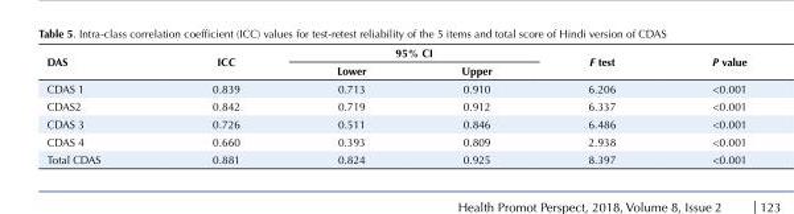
<table><tbody><tr><td rowspan="2">DAS</td><td rowspan="2">ICC</td><td colspan="2">95% CI</td><td rowspan="2">F test</td><td rowspan="2">P value</td></tr><tr><td>Lower</td><td>Upper</td></tr><tr><td>CDAS 1</td><td>0.839</td><td>0.713</td><td>0.910</td><td>6.206</td><td>&lt;0.001</td></tr><tr><td>CDAS2</td><td>0.842</td><td>0.719</td><td>0.912</td><td>6.337</td><td>&lt;0.001</td></tr><tr><td>CDAS 3</td><td>0.726</td><td>0.511</td><td>0.846</td><td>6.486</td><td>&lt;0.001</td></tr><tr><td>CDAS 4</td><td>0.660</td><td>0.393</td><td>0.809</td><td>2.938</td><td>&lt;0.001</td></tr><tr><td>Total CDAS</td><td>0.881</td><td>0.824</td><td>0.925</td><td>8.397</td><td>&lt;0.001</td></tr></tbody></table>